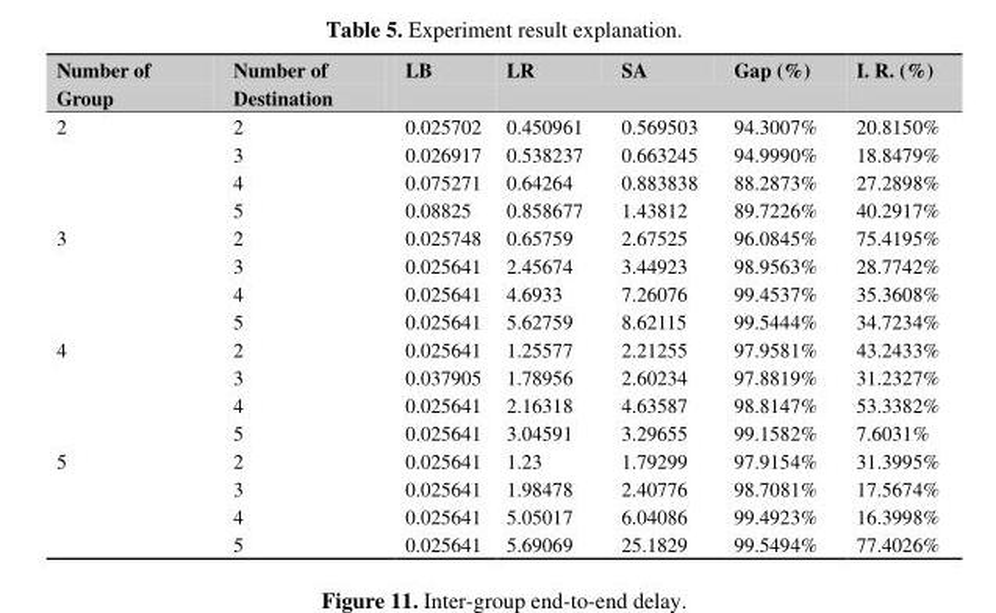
<table><thead><tr><td>Number of Group</td><td>Number of Destination</td><td>LB</td><td>LR</td><td>SA</td><td>Gap (%)</td><td>I. R. (%)</td></tr></thead><tbody><tr><td rowspan="4">2</td><td>2</td><td>0.025702</td><td>0.450961</td><td>0.569503</td><td>94.3007%</td><td>20.8150%</td></tr><tr><td>3</td><td>0.026917</td><td>0.538237</td><td>0.663245</td><td>94.9990%</td><td>18.8479%</td></tr><tr><td>4</td><td>0.075271</td><td>0.64264</td><td>0.883838</td><td>88.2873%</td><td>27.2898%</td></tr><tr><td>5</td><td>0.08825</td><td>0.858677</td><td>1.43812</td><td>89.7226%</td><td>40.2917%</td></tr><tr><td rowspan="4">3</td><td>2</td><td>0.025748</td><td>0.65759</td><td>2.67525</td><td>96.0845%</td><td>75.4195%</td></tr><tr><td>3</td><td>0.025641</td><td>2.45674</td><td>3.44923</td><td>98.9563%</td><td>28.7742%</td></tr><tr><td>4</td><td>0.025641</td><td>4.6933</td><td>7.26076</td><td>99.4537%</td><td>35.3608%</td></tr><tr><td>5</td><td>0.025641</td><td>5.62759</td><td>8.62115</td><td>99.5444%</td><td>34.7234%</td></tr><tr><td rowspan="4">4</td><td>2</td><td>0.025641</td><td>1.25577</td><td>2.21255</td><td>97.9581%</td><td>43.2433%</td></tr><tr><td>3</td><td>0.037905</td><td>1.78956</td><td>2.60234</td><td>97.8819%</td><td>31.2327%</td></tr><tr><td>4</td><td>0.025641</td><td>2.16318</td><td>4.63587</td><td>98.8147%</td><td>53.3382%</td></tr><tr><td>5</td><td>0.025641</td><td>3.04591</td><td>3.29655</td><td>99.1582%</td><td>7.6031%</td></tr><tr><td rowspan="4">5</td><td>2</td><td>0.025641</td><td>1.23</td><td>1.79299</td><td>97.9154%</td><td>31.3995%</td></tr><tr><td>3</td><td>0.025641</td><td>1.98478</td><td>2.40776</td><td>98.7081%</td><td>17.5674%</td></tr><tr><td>4</td><td>0.025641</td><td>5.05017</td><td>6.04086</td><td>99.4923%</td><td>16.3998%</td></tr><tr><td>5</td><td>0.025641</td><td>5.69069</td><td>25.1829</td><td>99.5494%</td><td>77.4026%</td></tr></tbody></table>